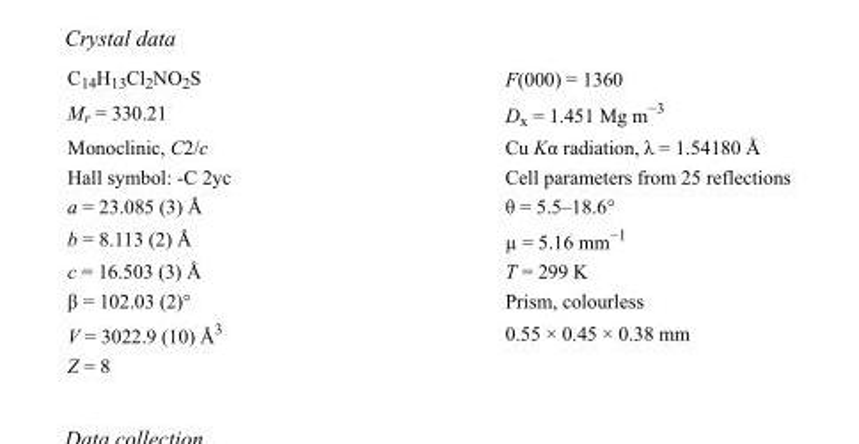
<table><tbody><tr><td>C<sub>14</sub>H<sub>13</sub>Cl<sub>2</sub>NO<sub>2</sub>S</td><td>F(000) = 1360</td></tr><tr><td>M<sub>r</sub> = 330.21</td><td>D<sub>x</sub> = 1.451 Mg m<sup>−3</sup></td></tr><tr><td>Monoclinic, C2/c</td><td>Cu Kα radiation, λ = 1.54180 Å</td></tr><tr><td>Hall symbol: -C 2yc</td><td>Cell parameters from 25 reflections</td></tr><tr><td>a = 23.085 (3) Å</td><td>θ = 5.5–18.6°</td></tr><tr><td>b = 8.113 (2) Å</td><td>µ = 5.16 mm<sup>−1</sup></td></tr><tr><td>c = 16.503 (3) Å</td><td>T = 299 K</td></tr><tr><td>β = 102.03 (2)°</td><td>Prism, colourless</td></tr><tr><td>V = 3022.9 (10) Å<sup>3</sup></td><td>0.55 × 0.45 × 0.38 mm</td></tr><tr><td>Z = 8</td><td></td></tr></tbody></table>